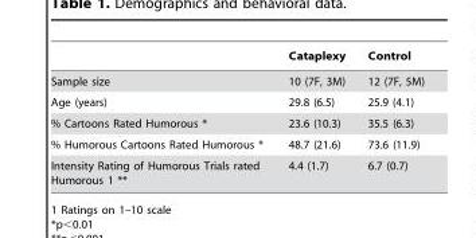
<table><thead><tr><td></td><td>Cataplexy</td><td>Control</td></tr></thead><tbody><tr><td>Sample size</td><td>10 (7F, 3M)</td><td>12 (7F, 5M)</td></tr><tr><td>Age (years)</td><td>29.8 (6.5)</td><td>25.9 (4.1)</td></tr><tr><td>% Cartoons Rated Humorous *</td><td>23.6 (10.3)</td><td>35.5 (6.3)</td></tr><tr><td>% Humorous Cartoons Rated Humorous *</td><td>48.7 (21.6)</td><td>73.6 (11.9)</td></tr><tr><td>Intensity Rating of Humorous Trials rated Humorous 1 **</td><td>4.4 (1.7)</td><td>6.7 (0.7)</td></tr></tbody></table>